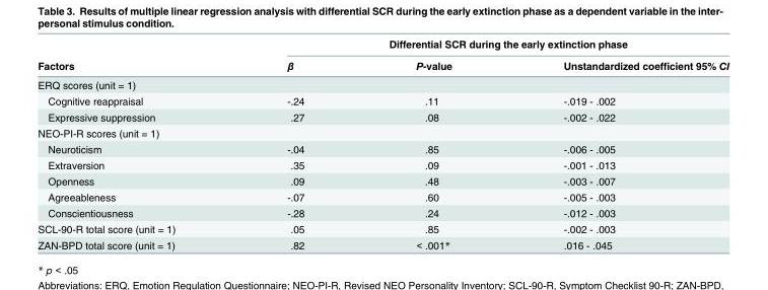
<table><thead><tr><td rowspan="2">Factors</td><td colspan="3">Differential SCR during the early extinction phase</td></tr><tr><td>β</td><td>P-value</td><td>Unstandardized coefficient 95% CI</td></tr></thead><tbody><tr><td colspan="4">ERQ scores (unit = 1)</td></tr><tr><td>Cognitive reappraisal</td><td>-.24</td><td>.11</td><td>-.019 - .002</td></tr><tr><td>Expressive suppression</td><td>.27</td><td>.08</td><td>-.002 - .022</td></tr><tr><td colspan="4">NEO-PI-R scores (unit = 1)</td></tr><tr><td>Neuroticism</td><td>-.04</td><td>.85</td><td>-.006 - .005</td></tr><tr><td>Extraversion</td><td>.35</td><td>.09</td><td>-.001 - .013</td></tr><tr><td>Openness</td><td>.09</td><td>.48</td><td>-.003 - .007</td></tr><tr><td>Agreeableness</td><td>-.07</td><td>.60</td><td>-.005 - .003</td></tr><tr><td>Conscientiousness</td><td>-.28</td><td>.24</td><td>-.012 - .003</td></tr><tr><td>SCL-90-R total score (unit = 1)</td><td>.05</td><td>.85</td><td>-.002 - .003</td></tr><tr><td>ZAN-BPD total score (unit = 1)</td><td>.82</td><td>&lt; .001*</td><td>.016 - .045</td></tr></tbody></table>